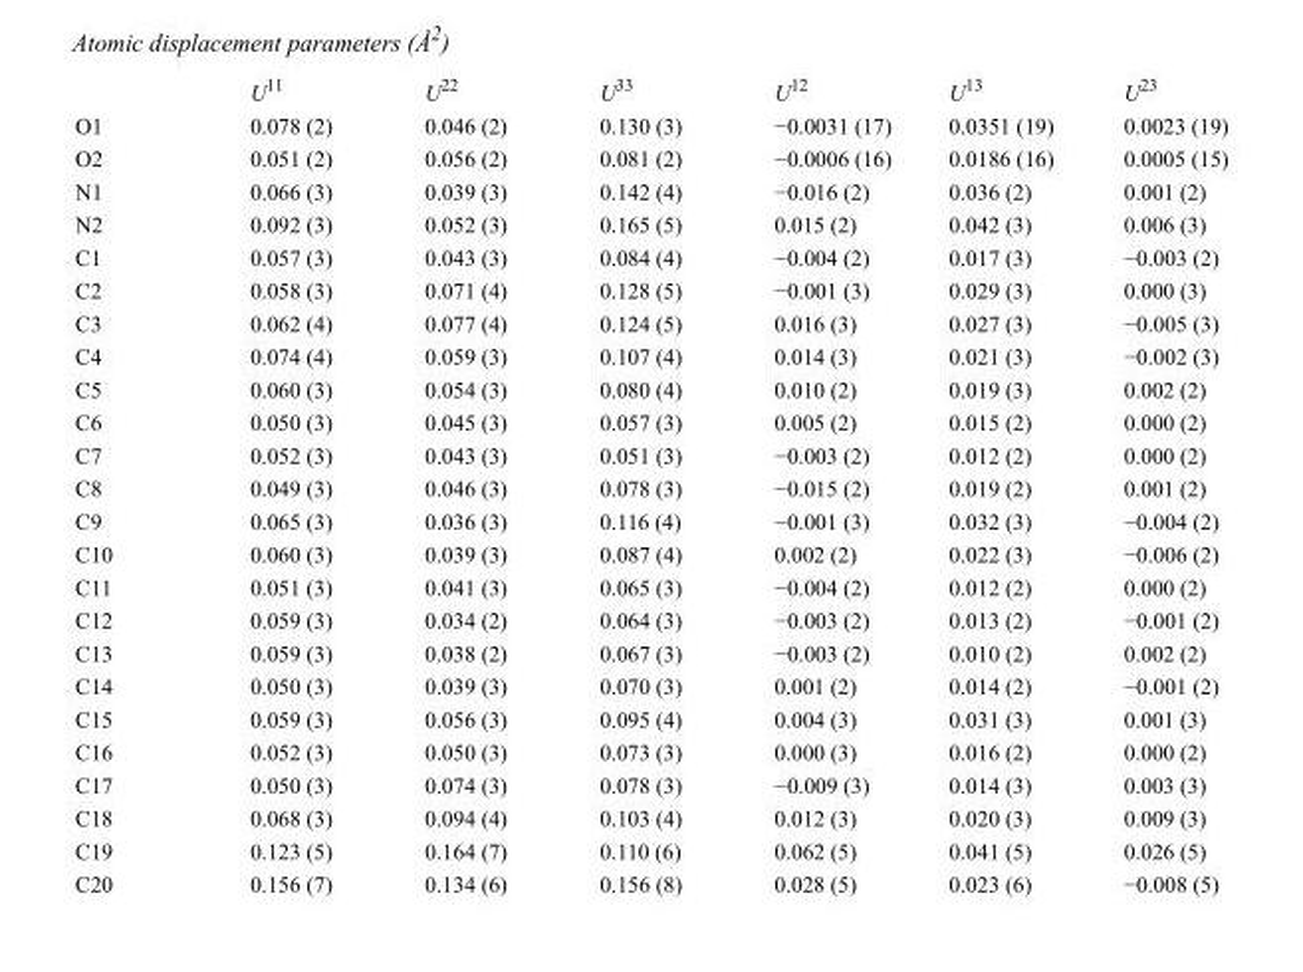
<table><thead><tr><td></td><td>U<sup>11</sup></td><td>U<sup>22</sup></td><td>U<sup>33</sup></td><td>U<sup>12</sup></td><td>U<sup>13</sup></td><td>U<sup>23</sup></td></tr></thead><tbody><tr><td>O1</td><td>0.078 (2)</td><td>0.046 (2)</td><td>0.130 (3)</td><td>−0.0031 (17)</td><td>0.0351 (19)</td><td>0.0023 (19)</td></tr><tr><td>O2</td><td>0.051 (2)</td><td>0.056 (2)</td><td>0.081 (2)</td><td>−0.0006 (16)</td><td>0.0186 (16)</td><td>0.0005 (15)</td></tr><tr><td>N1</td><td>0.066 (3)</td><td>0.039 (3)</td><td>0.142 (4)</td><td>−0.016 (2)</td><td>0.036 (2)</td><td>0.001 (2)</td></tr><tr><td>N2</td><td>0.092 (3)</td><td>0.052 (3)</td><td>0.165 (5)</td><td>0.015 (2)</td><td>0.042 (3)</td><td>0.006 (3)</td></tr><tr><td>C1</td><td>0.057 (3)</td><td>0.043 (3)</td><td>0.084 (4)</td><td>−0.004 (2)</td><td>0.017 (3)</td><td>−0.003 (2)</td></tr><tr><td>C2</td><td>0.058 (3)</td><td>0.071 (4)</td><td>0.128 (5)</td><td>−0.001 (3)</td><td>0.029 (3)</td><td>0.000 (3)</td></tr><tr><td>C3</td><td>0.062 (4)</td><td>0.077 (4)</td><td>0.124 (5)</td><td>0.016 (3)</td><td>0.027 (3)</td><td>−0.005 (3)</td></tr><tr><td>C4</td><td>0.074 (4)</td><td>0.059 (3)</td><td>0.107 (4)</td><td>0.014 (3)</td><td>0.021 (3)</td><td>−0.002 (3)</td></tr><tr><td>C5</td><td>0.060 (3)</td><td>0.054 (3)</td><td>0.080 (4)</td><td>0.010 (2)</td><td>0.019 (3)</td><td>0.002 (2)</td></tr><tr><td>C6</td><td>0.050 (3)</td><td>0.045 (3)</td><td>0.057 (3)</td><td>0.005 (2)</td><td>0.015 (2)</td><td>0.000 (2)</td></tr><tr><td>C7</td><td>0.052 (3)</td><td>0.043 (3)</td><td>0.051 (3)</td><td>−0.003 (2)</td><td>0.012 (2)</td><td>0.000 (2)</td></tr><tr><td>C8</td><td>0.049 (3)</td><td>0.046 (3)</td><td>0.078 (3)</td><td>−0.015 (2)</td><td>0.019 (2)</td><td>0.001 (2)</td></tr><tr><td>C9</td><td>0.065 (3)</td><td>0.036 (3)</td><td>0.116 (4)</td><td>−0.001 (3)</td><td>0.032 (3)</td><td>−0.004 (2)</td></tr><tr><td>C10</td><td>0.060 (3)</td><td>0.039 (3)</td><td>0.087 (4)</td><td>0.002 (2)</td><td>0.022 (3)</td><td>−0.006 (2)</td></tr><tr><td>C11</td><td>0.051 (3)</td><td>0.041 (3)</td><td>0.065 (3)</td><td>−0.004 (2)</td><td>0.012 (2)</td><td>0.000 (2)</td></tr><tr><td>C12</td><td>0.059 (3)</td><td>0.034 (2)</td><td>0.064 (3)</td><td>−0.003 (2)</td><td>0.013 (2)</td><td>−0.001 (2)</td></tr><tr><td>C13</td><td>0.059 (3)</td><td>0.038 (2)</td><td>0.067 (3)</td><td>−0.003 (2)</td><td>0.010 (2)</td><td>0.002 (2)</td></tr><tr><td>C14</td><td>0.050 (3)</td><td>0.039 (3)</td><td>0.070 (3)</td><td>0.001 (2)</td><td>0.014 (2)</td><td>−0.001 (2)</td></tr><tr><td>C15</td><td>0.059 (3)</td><td>0.056 (3)</td><td>0.095 (4)</td><td>0.004 (3)</td><td>0.031 (3)</td><td>0.001 (3)</td></tr><tr><td>C16</td><td>0.052 (3)</td><td>0.050 (3)</td><td>0.073 (3)</td><td>0.000 (3)</td><td>0.016 (2)</td><td>0.000 (2)</td></tr><tr><td>C17</td><td>0.050 (3)</td><td>0.074 (3)</td><td>0.078 (3)</td><td>−0.009 (3)</td><td>0.014 (3)</td><td>0.003 (3)</td></tr><tr><td>C18</td><td>0.068 (3)</td><td>0.094 (4)</td><td>0.103 (4)</td><td>0.012 (3)</td><td>0.020 (3)</td><td>0.009 (3)</td></tr><tr><td>C19</td><td>0.123 (5)</td><td>0.164 (7)</td><td>0.110 (6)</td><td>0.062 (5)</td><td>0.041 (5)</td><td>0.026 (5)</td></tr><tr><td>C20</td><td>0.156 (7)</td><td>0.134 (6)</td><td>0.156 (8)</td><td>0.028 (5)</td><td>0.023 (6)</td><td>−0.008 (5)</td></tr></tbody></table>